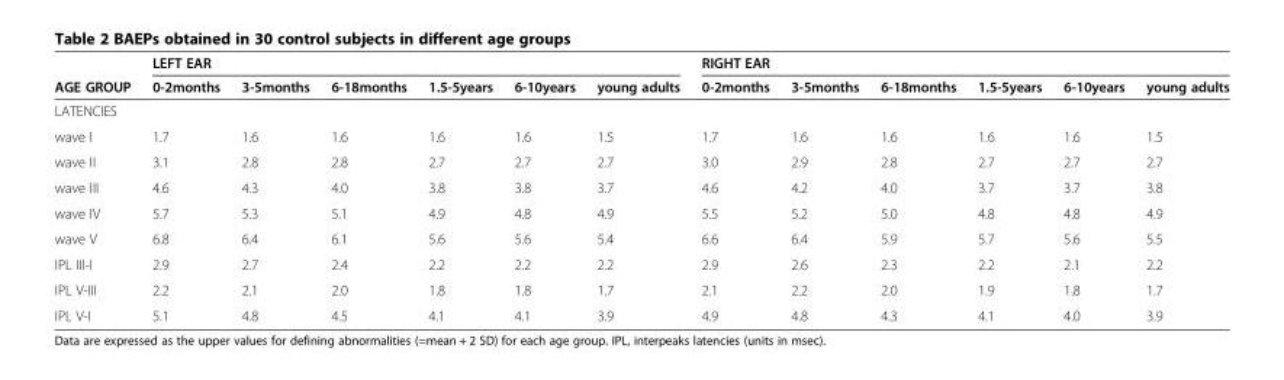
<table><thead><tr><td rowspan="2">AGE GROUP</td><td colspan="6">LEFT EAR</td><td colspan="6">RIGHT EAR</td></tr><tr><td>0-2months</td><td>3-5months</td><td>6-18months</td><td>1.5-5years</td><td>6-10years</td><td>young adults</td><td>0-2months</td><td>3-5months</td><td>6-18months</td><td>1.5-5years</td><td>6-10years</td><td>young adults</td></tr></thead><tbody><tr><td colspan="13">LATENCIES</td></tr><tr><td>wave I</td><td>1.7</td><td>1.6</td><td>1.6</td><td>1.6</td><td>1.6</td><td>1.5</td><td>1.7</td><td>1.6</td><td>1.6</td><td>1.6</td><td>1.6</td><td>1.5</td></tr><tr><td>wave II</td><td>3.1</td><td>2.8</td><td>2.8</td><td>2.7</td><td>2.7</td><td>2.7</td><td>3.0</td><td>2.9</td><td>2.8</td><td>2.7</td><td>2.7</td><td>2.7</td></tr><tr><td>wave III</td><td>4.6</td><td>4.3</td><td>4.0</td><td>3.8</td><td>3.8</td><td>3.7</td><td>4.6</td><td>4.2</td><td>4.0</td><td>3.7</td><td>3.7</td><td>3.8</td></tr><tr><td>wave IV</td><td>5.7</td><td>5.3</td><td>5.1</td><td>4.9</td><td>4.8</td><td>4.9</td><td>5.5</td><td>5.2</td><td>5.0</td><td>4.8</td><td>4.8</td><td>4.9</td></tr><tr><td>wave V</td><td>6.8</td><td>6.4</td><td>6.1</td><td>5.6</td><td>5.6</td><td>5.4</td><td>6.6</td><td>6.4</td><td>5.9</td><td>5.7</td><td>5.6</td><td>5.5</td></tr><tr><td>IPL III-I</td><td>2.9</td><td>2.7</td><td>2.4</td><td>2.2</td><td>2.2</td><td>2.2</td><td>2.9</td><td>2.6</td><td>2.3</td><td>2.2</td><td>2.1</td><td>2.2</td></tr><tr><td>IPL V-III</td><td>2.2</td><td>2.1</td><td>2.0</td><td>1.8</td><td>1.8</td><td>1.7</td><td>2.1</td><td>2.2</td><td>2.0</td><td>1.9</td><td>1.8</td><td>1.7</td></tr><tr><td>IPL V-I</td><td>5.1</td><td>4.8</td><td>4.5</td><td>4.1</td><td>4.1</td><td>3.9</td><td>4.9</td><td>4.8</td><td>4.3</td><td>4.1</td><td>4.0</td><td>3.9</td></tr></tbody></table>